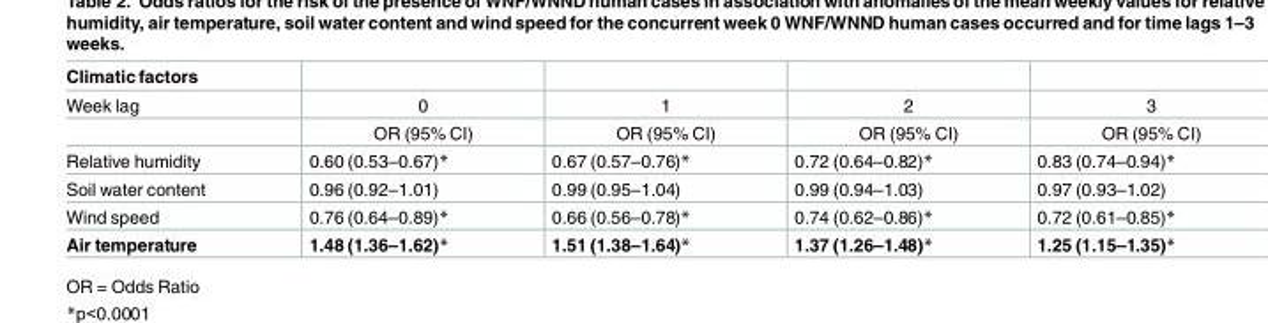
<table><thead><tr><td>Climatic factors</td><td></td><td></td><td></td><td></td></tr></thead><tbody><tr><td rowspan="2">Week lag</td><td>0</td><td>1</td><td>2</td><td>3</td></tr><tr><td>OR (95% CI)</td><td>OR (95% CI)</td><td>OR (95% CI)</td><td>OR (95% CI)</td></tr><tr><td>Relative humidity</td><td>0.60 (0.53–0.67)*</td><td>0.67 (0.57–0.76)*</td><td>0.72 (0.64–0.82)*</td><td>0.83 (0.74–0.94)*</td></tr><tr><td>Soil water content</td><td>0.96 (0.92–1.01)</td><td>0.99 (0.95–1.04)</td><td>0.99 (0.94–1.03)</td><td>0.97 (0.93–1.02)</td></tr><tr><td>Wind speed</td><td>0.76 (0.64–0.89)*</td><td>0.66 (0.56–0.78)*</td><td>0.74 (0.62–0.86)*</td><td>0.72 (0.61–0.85)*</td></tr><tr><td>Air temperature</td><td>1.48 (1.36–1.62)*</td><td>1.51 (1.38–1.64)*</td><td>1.37 (1.26–1.48)*</td><td>1.25 (1.15–1.35)*</td></tr></tbody></table>